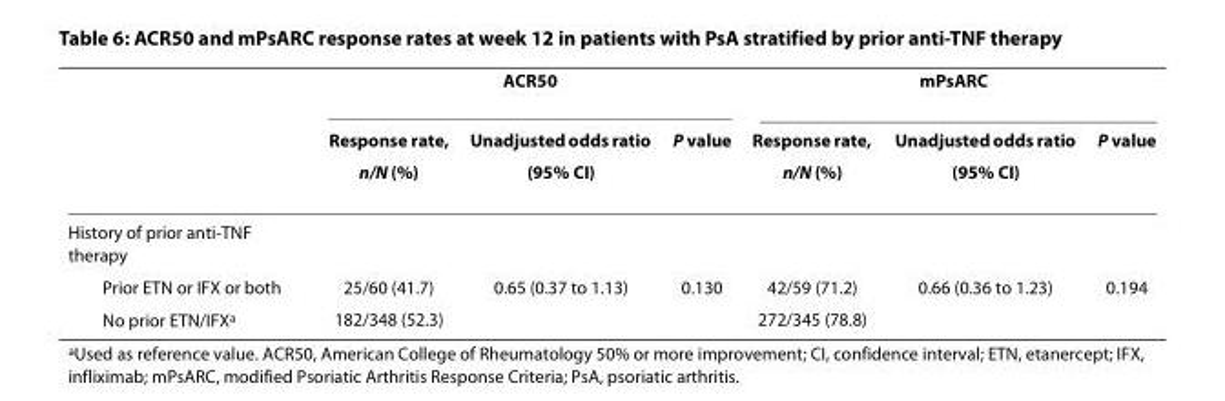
<table><thead><tr><td rowspan="3"></td><td colspan="3">ACR50</td><td colspan="3">mPsARC</td></tr><tr><td rowspan="2">Response rate, n/N (%)</td><td rowspan="2">Unadjusted odds ratio (95% CI)</td><td rowspan="2">P value</td><td rowspan="2">Response rate, n/N (%)</td><td rowspan="2">Unadjusted odds ratio (95% CI)</td><td rowspan="2">P value</td></tr><tr></tr></thead><tbody><tr><td colspan="7">History of prior anti-TNF therapy</td></tr><tr><td>Prior ETN or IFX or both</td><td>25/60 (41.7)</td><td>0.65 (0.37 to 1.13)</td><td>0.130</td><td>42/59 (71.2)</td><td>0.66 (0.36 to 1.23)</td><td>0.194</td></tr><tr><td>No prior ETN/IFX<sup>a</sup></td><td>182/348 (52.3)</td><td></td><td></td><td>272/345 (78.8)</td><td></td><td></td></tr></tbody></table>